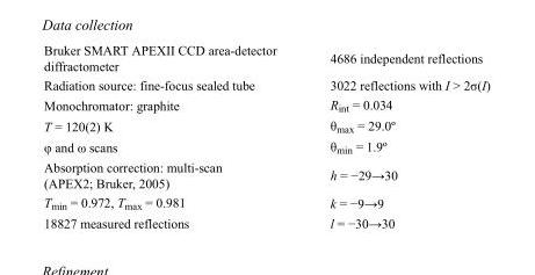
<table><tbody><tr><td>Bruker SMART APEXII CCD area-detector diffractometer</td><td>4686 independent reflections</td></tr><tr><td>Radiation source: fine-focus sealed tube</td><td>3022 reflections with I &gt; 2σ(I)</td></tr><tr><td>Monochromator: graphite</td><td>R<sub>int</sub> = 0.034</td></tr><tr><td>T = 120(2) K</td><td>θ<sub>max</sub> = 29.0º</td></tr><tr><td>φ and ω scans</td><td>θ<sub>min</sub> = 1.9º</td></tr><tr><td>Absorption correction: multi-scan (APEX2; Bruker, 2005)</td><td>h = −29→30</td></tr><tr><td>T<sub>min</sub> = 0.972, T<sub>max</sub> = 0.981</td><td>k = −9→9</td></tr><tr><td>18827 measured reflections</td><td>l = −30→30</td></tr></tbody></table>